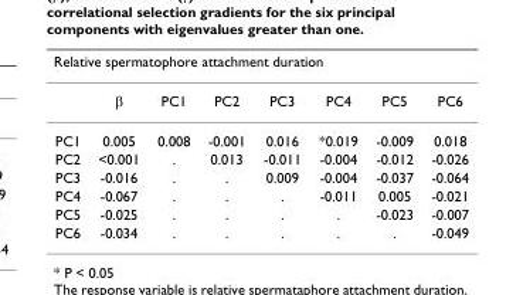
<table><thead><tr><td colspan="8">Relative spermatophore attachment duration</td></tr><tr><td></td><td>β</td><td>PC1</td><td>PC2</td><td>PC3</td><td>PC4</td><td>PC5</td><td>PC6</td></tr></thead><tbody><tr><td>PC1</td><td>0.005</td><td>0.008</td><td>-0.001</td><td>0.016</td><td>*0.019</td><td>-0.009</td><td>0.018</td></tr><tr><td>PC2</td><td>&lt;0.001</td><td>.</td><td>0.013</td><td>-0.011</td><td>-0.004</td><td>-0.012</td><td>-0.026</td></tr><tr><td>PC3</td><td>-0.016</td><td>.</td><td>.</td><td>0.009</td><td>-0.004</td><td>-0.037</td><td>-0.064</td></tr><tr><td>PC4</td><td>-0.067</td><td>.</td><td>.</td><td>.</td><td>-0.011</td><td>0.005</td><td>-0.021</td></tr><tr><td>PC5</td><td>-0.025</td><td>.</td><td>.</td><td>.</td><td>.</td><td>-0.023</td><td>-0.007</td></tr><tr><td>PC6</td><td>-0.034</td><td>.</td><td>.</td><td>.</td><td>.</td><td>.</td><td>-0.049</td></tr></tbody></table>